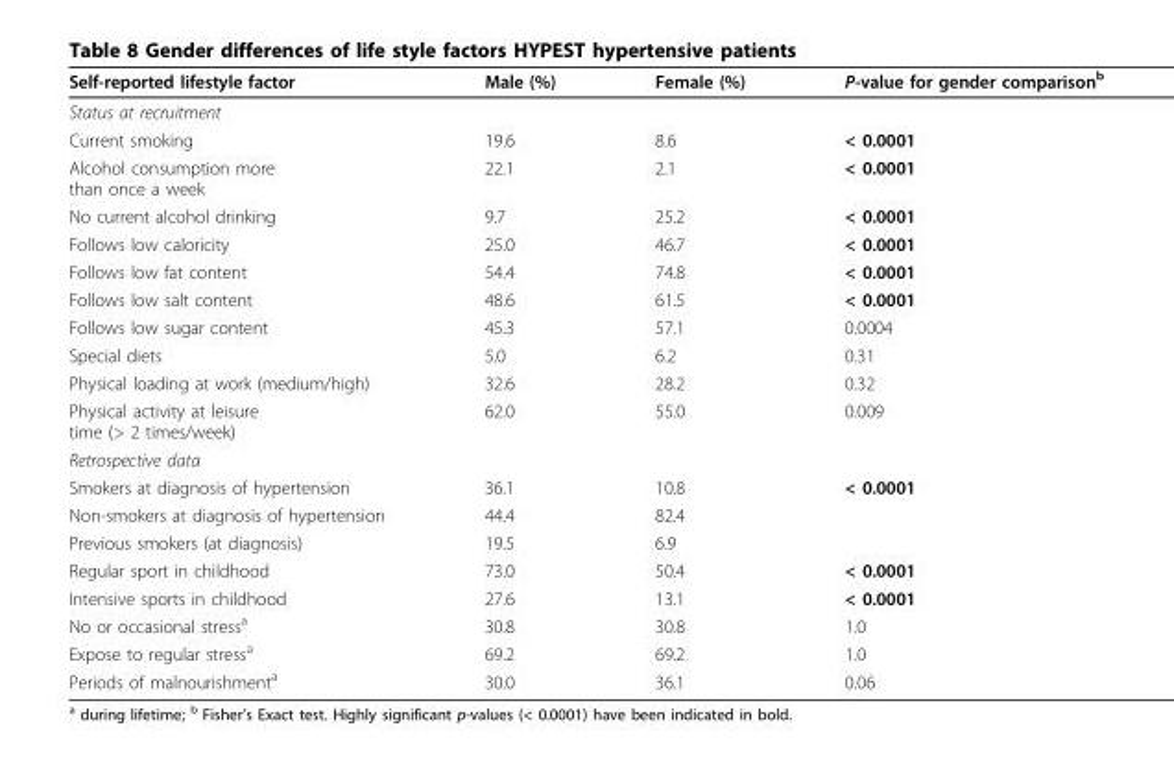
<table><thead><tr><td>Self-reported lifestyle factor</td><td>Male (%)</td><td>Female (%)</td><td>P-value for gender comparison<sup>b</sup></td></tr></thead><tbody><tr><td colspan="4">Status at recruitment</td></tr><tr><td>Current smoking</td><td>19.6</td><td>8.6</td><td>&lt; 0.0001</td></tr><tr><td>Alcohol consumption more than once a week</td><td>22.1</td><td>2.1</td><td>&lt; 0.0001</td></tr><tr><td>No current alcohol drinking</td><td>9.7</td><td>25.2</td><td>&lt; 0.0001</td></tr><tr><td>Follows low caloricity</td><td>25.0</td><td>46.7</td><td>&lt; 0.0001</td></tr><tr><td>Follows low fat content</td><td>54.4</td><td>74.8</td><td>&lt; 0.0001</td></tr><tr><td>Follows low salt content</td><td>48.6</td><td>61.5</td><td>&lt; 0.0001</td></tr><tr><td>Follows low sugar content</td><td>45.3</td><td>57.1</td><td>0.0004</td></tr><tr><td>Special diets</td><td>5.0</td><td>6.2</td><td>0.31</td></tr><tr><td>Physical loading at work (medium/high)</td><td>32.6</td><td>28.2</td><td>0.32</td></tr><tr><td>Physical activity at leisure time (&gt; 2 times/week)</td><td>62.0</td><td>55.0</td><td>0.009</td></tr><tr><td colspan="4">Retrospective data</td></tr><tr><td>Smokers at diagnosis of hypertension</td><td>36.1</td><td>10.8</td><td>&lt; 0.0001</td></tr><tr><td>Non-smokers at diagnosis of hypertension</td><td>44.4</td><td>82.4</td><td></td></tr><tr><td>Previous smokers (at diagnosis)</td><td>19.5</td><td>6.9</td><td></td></tr><tr><td>Regular sport in childhood</td><td>73.0</td><td>50.4</td><td>&lt; 0.0001</td></tr><tr><td>Intensive sports in childhood</td><td>27.6</td><td>13.1</td><td>&lt; 0.0001</td></tr><tr><td>No or occasional stress<sup>a</sup></td><td>30.8</td><td>30.8</td><td>1.0</td></tr><tr><td>Expose to regular stress<sup>a</sup></td><td>69.2</td><td>69.2</td><td>1.0</td></tr><tr><td>Periods of malnourishment<sup>a</sup></td><td>30.0</td><td>36.1</td><td>0.06</td></tr></tbody></table>